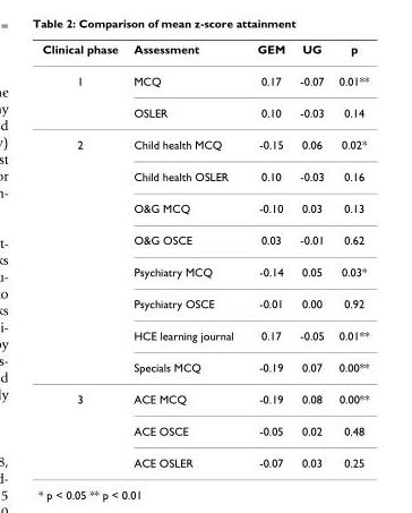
<table><thead><tr><td>Clinical phase</td><td>Assessment</td><td>GEM</td><td>UG</td><td>p</td></tr></thead><tbody><tr><td rowspan="2">1</td><td>MCQ</td><td>0.17</td><td>-0.07</td><td>0.01**</td></tr><tr><td>OSLER</td><td>0.10</td><td>-0.03</td><td>0.14</td></tr><tr><td rowspan="8">2</td><td>Child health MCQ</td><td>-0.15</td><td>0.06</td><td>0.02*</td></tr><tr><td>Child health OSLER</td><td>0.10</td><td>-0.03</td><td>0.16</td></tr><tr><td>O&amp;G MCQ</td><td>-0.10</td><td>0.03</td><td>0.13</td></tr><tr><td>O&amp;G OSCE</td><td>0.03</td><td>-0.01</td><td>0.62</td></tr><tr><td>Psychiatry MCQ</td><td>-0.14</td><td>0.05</td><td>0.03*</td></tr><tr><td>Psychiatry OSCE</td><td>-0.01</td><td>0.00</td><td>0.92</td></tr><tr><td>HCE learning journal</td><td>0.17</td><td>-0.05</td><td>0.01**</td></tr><tr><td>Specials MCQ</td><td>-0.19</td><td>0.07</td><td>0.00**</td></tr><tr><td rowspan="3">3</td><td>ACE MCQ</td><td>-0.19</td><td>0.08</td><td>0.00**</td></tr><tr><td>ACE OSCE</td><td>-0.05</td><td>0.02</td><td>0.48</td></tr><tr><td>ACE OSLER</td><td>-0.07</td><td>0.03</td><td>0.25</td></tr></tbody></table>